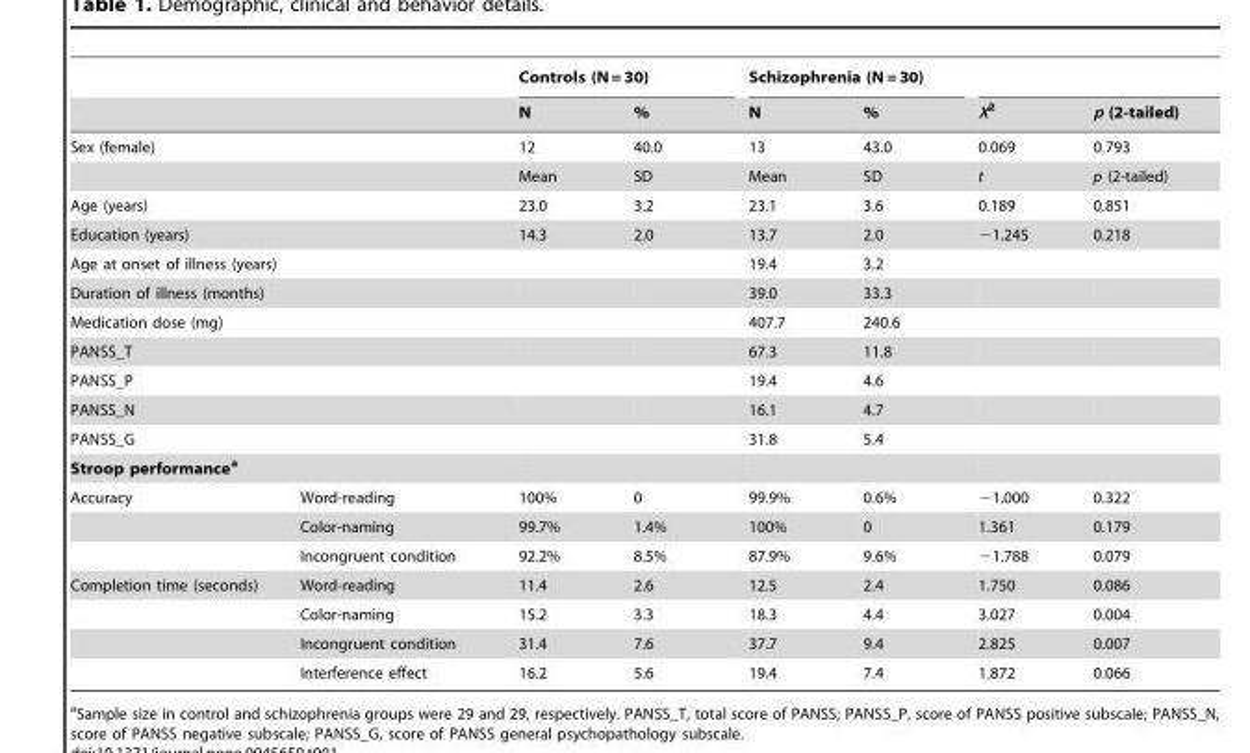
<table><thead><tr><td rowspan="2"></td><td rowspan="2"></td><td colspan="2">Controls (N = 30)</td><td colspan="2">Schizophrenia (N = 30)</td><td rowspan="2">X<sup>2</sup></td><td rowspan="2">p (2-tailed)</td></tr><tr><td>N</td><td>%</td><td>N</td><td>%</td></tr></thead><tbody><tr><td rowspan="2" colspan="2">Sex (female)</td><td>12</td><td>40.0</td><td>13</td><td>43.0</td><td>0.069</td><td>0.793</td></tr><tr><td>Mean</td><td>SD</td><td>Mean</td><td>SD</td><td>t</td><td>p (2-tailed)</td></tr><tr><td colspan="2">Age (years)</td><td>23.0</td><td>3.2</td><td>23.1</td><td>3.6</td><td>0.189</td><td>0.851</td></tr><tr><td colspan="2">Education (years)</td><td>14.3</td><td>2.0</td><td>13.7</td><td>2.0</td><td>−1.245</td><td>0.218</td></tr><tr><td colspan="2">Age at onset of illness (years)</td><td></td><td></td><td>19.4</td><td>3.2</td><td></td><td></td></tr><tr><td colspan="2">Duration of illness (months)</td><td></td><td></td><td>39.0</td><td>33.3</td><td></td><td></td></tr><tr><td colspan="2">Medication dose (mg)</td><td></td><td></td><td>407.7</td><td>240.6</td><td></td><td></td></tr><tr><td colspan="2">PANSS_T</td><td></td><td></td><td>67.3</td><td>11.8</td><td></td><td></td></tr><tr><td colspan="2">PANSS_P</td><td></td><td></td><td>19.4</td><td>4.6</td><td></td><td></td></tr><tr><td colspan="2">PANSS_N</td><td></td><td></td><td>16.1</td><td>4.7</td><td></td><td></td></tr><tr><td colspan="2">PANSS_G</td><td></td><td></td><td>31.8</td><td>5.4</td><td></td><td></td></tr><tr><td colspan="8">Stroop performancea</td></tr><tr><td rowspan="3">Accuracy</td><td>Word-reading</td><td>100%</td><td>0</td><td>99.9%</td><td>0.6%</td><td>−1.000</td><td>0.322</td></tr><tr><td>Color-naming</td><td>99.7%</td><td>1.4%</td><td>100%</td><td>0</td><td>1.361</td><td>0.179</td></tr><tr><td>Incongruent condition</td><td>92.2%</td><td>8.5%</td><td>87.9%</td><td>9.6%</td><td>−1.788</td><td>0.079</td></tr><tr><td rowspan="4">Completion time (seconds)</td><td>Word-reading</td><td>11.4</td><td>2.6</td><td>12.5</td><td>2.4</td><td>1.750</td><td>0.086</td></tr><tr><td>Color-naming</td><td>15.2</td><td>3.3</td><td>18.3</td><td>4.4</td><td>3.027</td><td>0.004</td></tr><tr><td>Incongruent condition</td><td>31.4</td><td>7.6</td><td>37.7</td><td>9.4</td><td>2.825</td><td>0.007</td></tr><tr><td>Interference effect</td><td>16.2</td><td>5.6</td><td>19.4</td><td>7.4</td><td>1.872</td><td>0.066</td></tr></tbody></table>